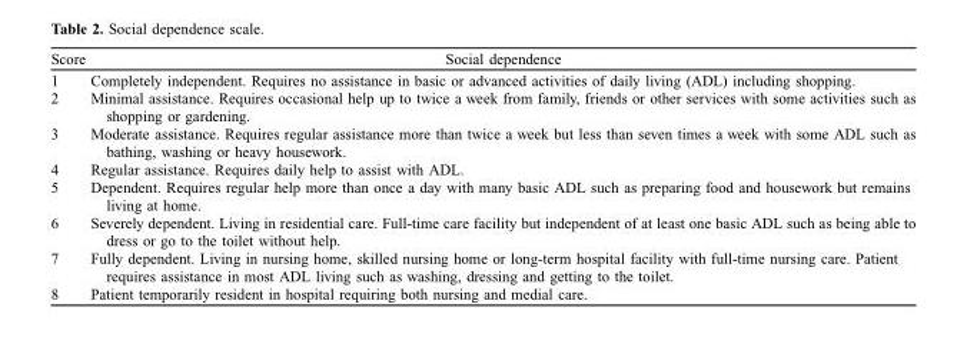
<table><thead><tr><td>Score</td><td>Social dependence</td></tr></thead><tbody><tr><td>1</td><td>Completely independent. Requires no assistance in basic or advanced activities of daily living (ADL) including shopping.</td></tr><tr><td>2</td><td>Minimal assistance. Requires occasional help up to twice a week from family, friends or other services with some activities such as shopping or gardening.</td></tr><tr><td>3</td><td>Moderate assistance. Requires regular assistance more than twice a week but less than seven times a week with some ADL such as bathing, washing or heavy housework.</td></tr><tr><td>4</td><td>Regular assistance. Requires daily help to assist with ADL.</td></tr><tr><td>5</td><td>Dependent. Requires regular help more than once a day with many basic ADL such as preparing food and housework but remains living at home.</td></tr><tr><td>6</td><td>Severely dependent. Living in residential care. Full-time care facility but independent of at least one basic ADL such as being able to dress or go to the toilet without help.</td></tr><tr><td>7</td><td>Fully dependent. Living in nursing home, skilled nursing home or long-term hospital facility with full-time nursing care. Patient requires assistance in most ADL living such as washing, dressing and getting to the toilet.</td></tr><tr><td>8</td><td>Patient temporarily resident in hospital requiring both nursing and medial care.</td></tr></tbody></table>